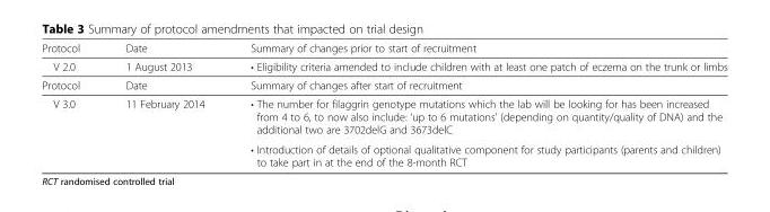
<table><thead><tr><td>Protocol</td><td>Date</td><td>Summary of changes prior to start of recruitment</td></tr></thead><tbody><tr><td>V 2.0</td><td>1 August 2013</td><td>• Eligibility criteria amended to include children with at least one patch of eczema on the trunk or limbs</td></tr><tr><td>Protocol</td><td>Date</td><td>Summary of changes after start of recruitment</td></tr><tr><td rowspan="2">V 3.0</td><td rowspan="2">11 February 2014</td><td>• The number for filaggrin genotype mutations which the lab will be looking for has been increased from 4 to 6, to now also include: ‘up to 6 mutations’ (depending on quantity/quality of DNA) and the additional two are 3702delG and 3673delC</td></tr><tr><td>• Introduction of details of optional qualitative component for study participants (parents and children) to take part in at the end of the 8-month RCT</td></tr></tbody></table>